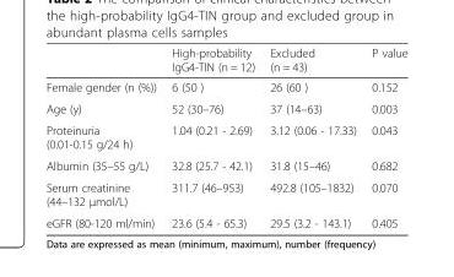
<table><thead><tr><td></td><td>High-probability IgG4-TIN (n = 12)</td><td>Excluded (n = 43)</td><td>P value</td></tr></thead><tbody><tr><td>Female gender (n (%))</td><td>6 (50 )</td><td>26 (60 )</td><td>0.152</td></tr><tr><td>Age (y)</td><td>52 (30–76)</td><td>37 (14–63)</td><td>0.003</td></tr><tr><td>Proteinuria (0.01-0.15 g/24 h)</td><td>1.04 (0.21 - 2.69)</td><td>3.12 (0.06 - 17.33)</td><td>0.043</td></tr><tr><td>Albumin (35–55 g/L)</td><td>32.8 (25.7 - 42.1)</td><td>31.8 (15–46)</td><td>0.682</td></tr><tr><td>Serum creatinine (44–132 μmol/L)</td><td>311.7 (46–953)</td><td>492.8 (105–1832)</td><td>0.070</td></tr><tr><td>eGFR (80-120 ml/min)</td><td>23.6 (5.4 - 65.3)</td><td>29.5 (3.2 - 143.1)</td><td>0.405</td></tr></tbody></table>